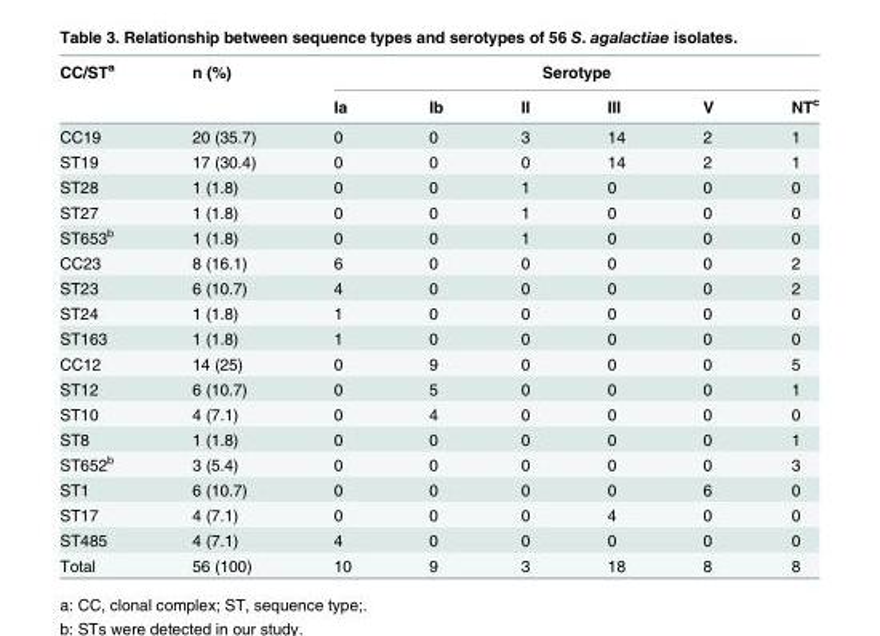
<table><thead><tr><td rowspan="2">CC/ST<sup>a</sup></td><td rowspan="2">n (%)</td><td colspan="6">Serotype</td></tr><tr><td>Ia</td><td>Ib</td><td>II</td><td>III</td><td>V</td><td>NT<sup>c</sup></td></tr></thead><tbody><tr><td>CC19</td><td>20 (35.7)</td><td>0</td><td>0</td><td>3</td><td>14</td><td>2</td><td>1</td></tr><tr><td>ST19</td><td>17 (30.4)</td><td>0</td><td>0</td><td>0</td><td>14</td><td>2</td><td>1</td></tr><tr><td>ST28</td><td>1 (1.8)</td><td>0</td><td>0</td><td>1</td><td>0</td><td>0</td><td>0</td></tr><tr><td>ST27</td><td>1 (1.8)</td><td>0</td><td>0</td><td>1</td><td>0</td><td>0</td><td>0</td></tr><tr><td>ST653<sup>b</sup></td><td>1 (1.8)</td><td>0</td><td>0</td><td>1</td><td>0</td><td>0</td><td>0</td></tr><tr><td>CC23</td><td>8 (16.1)</td><td>6</td><td>0</td><td>0</td><td>0</td><td>0</td><td>2</td></tr><tr><td>ST23</td><td>6 (10.7)</td><td>4</td><td>0</td><td>0</td><td>0</td><td>0</td><td>2</td></tr><tr><td>ST24</td><td>1 (1.8)</td><td>1</td><td>0</td><td>0</td><td>0</td><td>0</td><td>0</td></tr><tr><td>ST163</td><td>1 (1.8)</td><td>1</td><td>0</td><td>0</td><td>0</td><td>0</td><td>0</td></tr><tr><td>CC12</td><td>14 (25)</td><td>0</td><td>9</td><td>0</td><td>0</td><td>0</td><td>5</td></tr><tr><td>ST12</td><td>6 (10.7)</td><td>0</td><td>5</td><td>0</td><td>0</td><td>0</td><td>1</td></tr><tr><td>ST10</td><td>4 (7.1)</td><td>0</td><td>4</td><td>0</td><td>0</td><td>0</td><td>0</td></tr><tr><td>ST8</td><td>1 (1.8)</td><td>0</td><td>0</td><td>0</td><td>0</td><td>0</td><td>1</td></tr><tr><td>ST652<sup>b</sup></td><td>3 (5.4)</td><td>0</td><td>0</td><td>0</td><td>0</td><td>0</td><td>3</td></tr><tr><td>ST1</td><td>6 (10.7)</td><td>0</td><td>0</td><td>0</td><td>0</td><td>6</td><td>0</td></tr><tr><td>ST17</td><td>4 (7.1)</td><td>0</td><td>0</td><td>0</td><td>4</td><td>0</td><td>0</td></tr><tr><td>ST485</td><td>4 (7.1)</td><td>4</td><td>0</td><td>0</td><td>0</td><td>0</td><td>0</td></tr><tr><td>Total</td><td>56 (100)</td><td>10</td><td>9</td><td>3</td><td>18</td><td>8</td><td>8</td></tr></tbody></table>